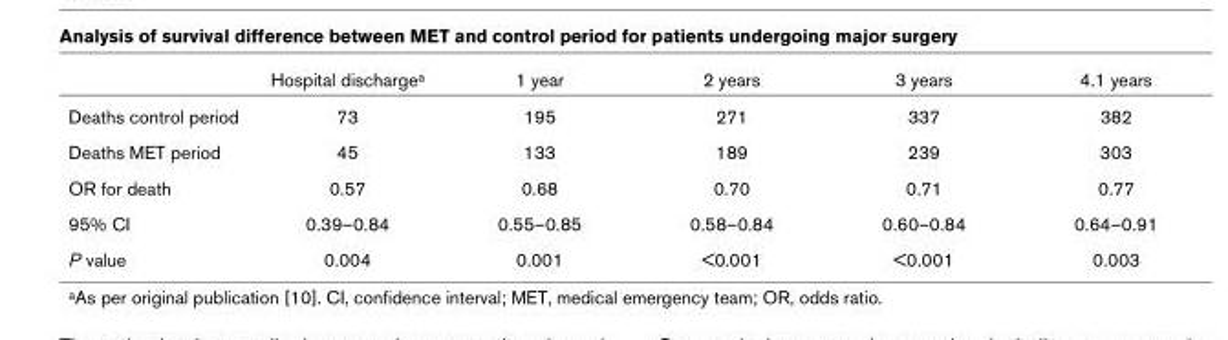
<table><thead><tr><td></td><td>Hospital discharge<sup>a</sup></td><td>1 year</td><td>2 years</td><td>3 years</td><td>4.1 years</td></tr></thead><tbody><tr><td>Deaths control period</td><td>73</td><td>195</td><td>271</td><td>337</td><td>382</td></tr><tr><td>Deaths MET period</td><td>45</td><td>133</td><td>189</td><td>239</td><td>303</td></tr><tr><td>OR for death</td><td>0.57</td><td>0.68</td><td>0.70</td><td>0.71</td><td>0.77</td></tr><tr><td>95% CI</td><td>0.39–0.84</td><td>0.55–0.85</td><td>0.58–0.84</td><td>0.60–0.84</td><td>0.64–0.91</td></tr><tr><td>P value</td><td>0.004</td><td>0.001</td><td>&lt;0.001</td><td>&lt;0.001</td><td>0.003</td></tr></tbody></table>